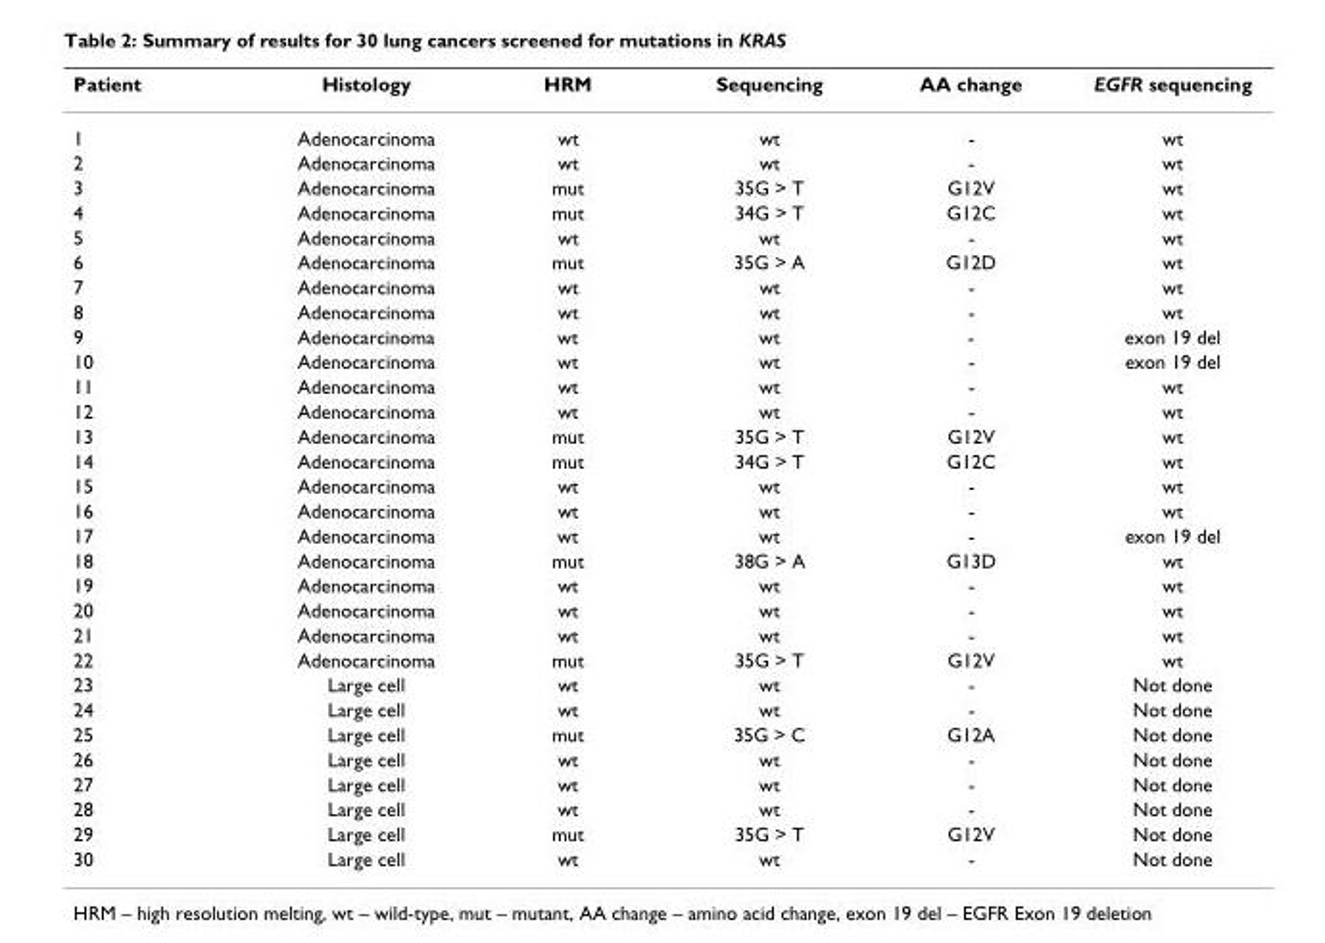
<table><thead><tr><td>Patient</td><td>Histology</td><td>HRM</td><td>Sequencing</td><td>AA change</td><td>EGFR sequencing</td></tr></thead><tbody><tr><td>1</td><td>Adenocarcinoma</td><td>wt</td><td>wt</td><td>-</td><td>wt</td></tr><tr><td>2</td><td>Adenocarcinoma</td><td>wt</td><td>wt</td><td>-</td><td>wt</td></tr><tr><td>3</td><td>Adenocarcinoma</td><td>mut</td><td>35G &gt; T</td><td>G12V</td><td>wt</td></tr><tr><td>4</td><td>Adenocarcinoma</td><td>mut</td><td>34G &gt; T</td><td>G12C</td><td>wt</td></tr><tr><td>5</td><td>Adenocarcinoma</td><td>wt</td><td>wt</td><td>-</td><td>wt</td></tr><tr><td>6</td><td>Adenocarcinoma</td><td>mut</td><td>35G &gt; A</td><td>G12D</td><td>wt</td></tr><tr><td>7</td><td>Adenocarcinoma</td><td>wt</td><td>wt</td><td>-</td><td>wt</td></tr><tr><td>8</td><td>Adenocarcinoma</td><td>wt</td><td>wt</td><td>-</td><td>wt</td></tr><tr><td>9</td><td>Adenocarcinoma</td><td>wt</td><td>wt</td><td>-</td><td>exon 19 del</td></tr><tr><td>10</td><td>Adenocarcinoma</td><td>wt</td><td>wt</td><td>-</td><td>exon 19 del</td></tr><tr><td>11</td><td>Adenocarcinoma</td><td>wt</td><td>wt</td><td>-</td><td>wt</td></tr><tr><td>12</td><td>Adenocarcinoma</td><td>wt</td><td>wt</td><td>-</td><td>wt</td></tr><tr><td>13</td><td>Adenocarcinoma</td><td>mut</td><td>35G &gt; T</td><td>G12V</td><td>wt</td></tr><tr><td>14</td><td>Adenocarcinoma</td><td>mut</td><td>34G &gt; T</td><td>G12C</td><td>wt</td></tr><tr><td>15</td><td>Adenocarcinoma</td><td>wt</td><td>wt</td><td>-</td><td>wt</td></tr><tr><td>16</td><td>Adenocarcinoma</td><td>wt</td><td>wt</td><td>-</td><td>wt</td></tr><tr><td>17</td><td>Adenocarcinoma</td><td>wt</td><td>wt</td><td>-</td><td>exon 19 del</td></tr><tr><td>18</td><td>Adenocarcinoma</td><td>mut</td><td>38G &gt; A</td><td>G13D</td><td>wt</td></tr><tr><td>19</td><td>Adenocarcinoma</td><td>wt</td><td>wt</td><td>-</td><td>wt</td></tr><tr><td>20</td><td>Adenocarcinoma</td><td>wt</td><td>wt</td><td>-</td><td>wt</td></tr><tr><td>21</td><td>Adenocarcinoma</td><td>wt</td><td>wt</td><td>-</td><td>wt</td></tr><tr><td>22</td><td>Adenocarcinoma</td><td>mut</td><td>35G &gt; T</td><td>G12V</td><td>wt</td></tr><tr><td>23</td><td>Large cell</td><td>wt</td><td>wt</td><td>-</td><td>Not done</td></tr><tr><td>24</td><td>Large cell</td><td>wt</td><td>wt</td><td>-</td><td>Not done</td></tr><tr><td>25</td><td>Large cell</td><td>mut</td><td>35G &gt; C</td><td>G12A</td><td>Not done</td></tr><tr><td>26</td><td>Large cell</td><td>wt</td><td>wt</td><td>-</td><td>Not done</td></tr><tr><td>27</td><td>Large cell</td><td>wt</td><td>wt</td><td>-</td><td>Not done</td></tr><tr><td>28</td><td>Large cell</td><td>wt</td><td>wt</td><td>-</td><td>Not done</td></tr><tr><td>29</td><td>Large cell</td><td>mut</td><td>35G &gt; T</td><td>G12V</td><td>Not done</td></tr><tr><td>30</td><td>Large cell</td><td>wt</td><td>wt</td><td>-</td><td>Not done</td></tr></tbody></table>